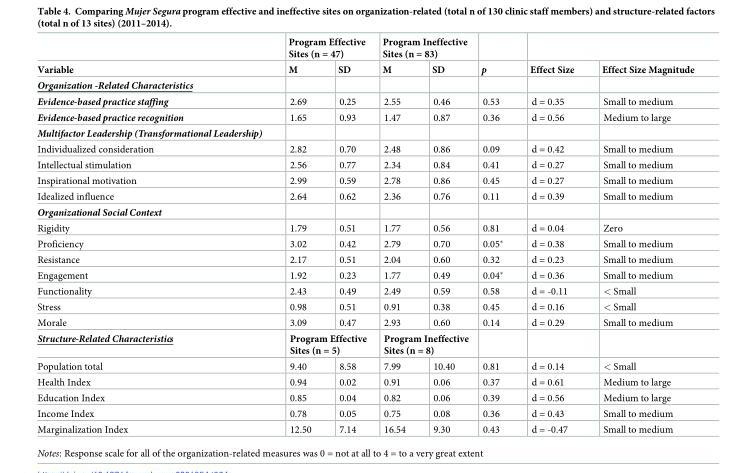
<table><thead><tr><td rowspan="2">Variable</td><td colspan="2">Program Effective Sites (n = 47)</td><td colspan="2">Program Ineffective Sites (n = 83)</td><td rowspan="2">p</td><td rowspan="2">Effect Size</td><td rowspan="2">Effect Size Magnitude</td></tr><tr><td>M</td><td>SD</td><td>M</td><td>SD</td></tr></thead><tbody><tr><td colspan="8">Organization -Related Characteristics</td></tr><tr><td>Evidence-based practice staffing</td><td>2.69</td><td>0.25</td><td>2.55</td><td>0.46</td><td>0.53</td><td>d = 0.35</td><td>Small to medium</td></tr><tr><td>Evidence-based practice recognition</td><td>1.65</td><td>0.93</td><td>1.47</td><td>0.87</td><td>0.36</td><td>d = 0.56</td><td>Medium to large</td></tr><tr><td colspan="8">Multifactor Leadership (Transformational Leadership)</td></tr><tr><td>Individualized consideration</td><td>2.82</td><td>0.70</td><td>2.48</td><td>0.86</td><td>0.09</td><td>d = 0.42</td><td>Small to medium</td></tr><tr><td>Intellectual stimulation</td><td>2.56</td><td>0.77</td><td>2.34</td><td>0.84</td><td>0.41</td><td>d = 0.27</td><td>Small to medium</td></tr><tr><td>Inspirational motivation</td><td>2.99</td><td>0.59</td><td>2.78</td><td>0.86</td><td>0.45</td><td>d = 0.27</td><td>Small to medium</td></tr><tr><td>Idealized influence</td><td>2.64</td><td>0.62</td><td>2.36</td><td>0.76</td><td>0.11</td><td>d = 0.39</td><td>Small to medium</td></tr><tr><td colspan="8">Organizational Social Context</td></tr><tr><td>Rigidity</td><td>1.79</td><td>0.51</td><td>1.77</td><td>0.56</td><td>0.81</td><td>d = 0.04</td><td>Zero</td></tr><tr><td>Proficiency</td><td>3.02</td><td>0.42</td><td>2.79</td><td>0.70</td><td>0.05*</td><td>d = 0.38</td><td>Small to medium</td></tr><tr><td>Resistance</td><td>2.17</td><td>0.51</td><td>2.04</td><td>0.60</td><td>0.32</td><td>d = 0.23</td><td>Small to medium</td></tr><tr><td>Engagement</td><td>1.92</td><td>0.23</td><td>1.77</td><td>0.49</td><td>0.04*</td><td>d = 0.36</td><td>Small to medium</td></tr><tr><td>Functionality</td><td>2.43</td><td>0.49</td><td>2.49</td><td>0.59</td><td>0.58</td><td>d = -0.11</td><td>&lt; Small</td></tr><tr><td>Stress</td><td>0.98</td><td>0.51</td><td>0.91</td><td>0.38</td><td>0.45</td><td>d = 0.16</td><td>&lt; Small</td></tr><tr><td>Morale</td><td>3.09</td><td>0.47</td><td>2.93</td><td>0.60</td><td>0.14</td><td>d = 0.29</td><td>Small to medium</td></tr><tr><td>Structure-Related Characteristics</td><td colspan="2">Program Effective Sites (n = 5)</td><td colspan="2">Program Ineffective Sites (n = 8)</td><td></td><td></td><td></td></tr><tr><td>Population total</td><td>9.40</td><td>8.58</td><td>7.99</td><td>10.40</td><td>0.81</td><td>d = 0.14</td><td>&lt; Small</td></tr><tr><td>Health Index</td><td>0.94</td><td>0.02</td><td>0.91</td><td>0.06</td><td>0.37</td><td>d = 0.61</td><td>Medium to large</td></tr><tr><td>Education Index</td><td>0.85</td><td>0.04</td><td>0.82</td><td>0.06</td><td>0.39</td><td>d = 0.56</td><td>Medium to large</td></tr><tr><td>Income Index</td><td>0.78</td><td>0.05</td><td>0.75</td><td>0.08</td><td>0.36</td><td>d = 0.43</td><td>Small to medium</td></tr><tr><td>Marginalization Index</td><td>12.50</td><td>7.14</td><td>16.54</td><td>9.30</td><td>0.43</td><td>d = -0.47</td><td>Small to medium</td></tr></tbody></table>